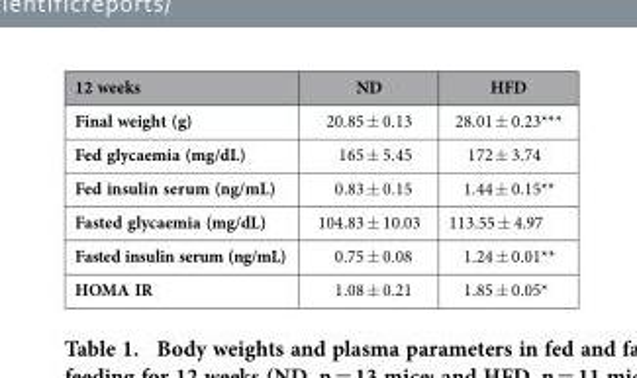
<table><thead><tr><td>12 weeks</td><td>ND</td><td>HFD</td></tr></thead><tbody><tr><td>Final weight (g)</td><td>20.85 ± 0.13</td><td>28.01 ± 0.23***</td></tr><tr><td>Fed glycaemia (mg/dL)</td><td>165 ± 5.45</td><td>172 ± 3.74</td></tr><tr><td>Fed insulin serum (ng/mL)</td><td>0.83 ± 0.15</td><td>1.44 ± 0.15**</td></tr><tr><td>Fasted glycaemia (mg/dL)</td><td>104.83 ± 10.03</td><td>113.55 ± 4.97</td></tr><tr><td>Fasted insulin serum (ng/mL)</td><td>0.75 ± 0.08</td><td>1.24 ± 0.01**</td></tr><tr><td>HOMA IR</td><td>1.08 ± 0.21</td><td>1.85 ± 0.05*</td></tr></tbody></table>